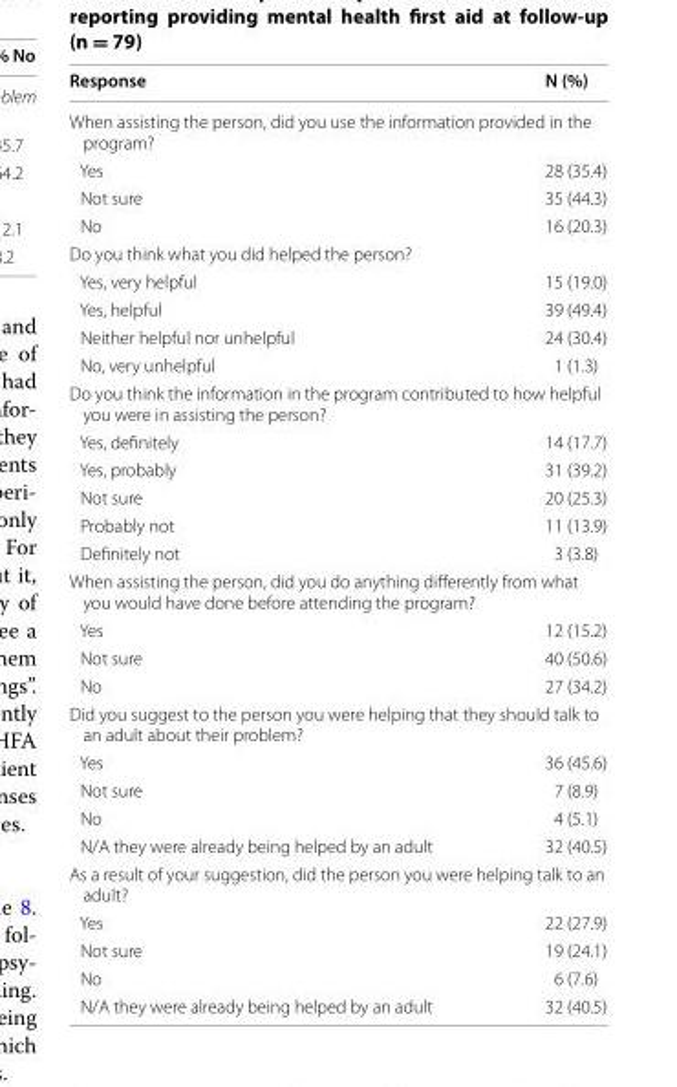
<table><thead><tr><td>Response</td><td>N (%)</td></tr></thead><tbody><tr><td colspan="2">When assisting the person, did you use the information provided in the program?</td></tr><tr><td>Yes</td><td>28 (35.4)</td></tr><tr><td>Not sure</td><td>35 (44.3)</td></tr><tr><td>No</td><td>16 (20.3)</td></tr><tr><td colspan="2">Do you think what you did helped the person?</td></tr><tr><td>Yes, very helpful</td><td>15 (19.0)</td></tr><tr><td>Yes, helpful</td><td>39 (49.4)</td></tr><tr><td>Neither helpful nor unhelpful</td><td>24 (30.4)</td></tr><tr><td>No, very unhelpful</td><td>1 (1.3)</td></tr><tr><td colspan="2">Do you think the information in the program contributed to how helpful you were in assisting the person?</td></tr><tr><td>Yes, definitely</td><td>14 (17.7)</td></tr><tr><td>Yes, probably</td><td>31 (39.2)</td></tr><tr><td>Not sure</td><td>20 (25.3)</td></tr><tr><td>Probably not</td><td>11 (13.9)</td></tr><tr><td>Definitely not</td><td>3 (3.8)</td></tr><tr><td colspan="2">When assisting the person, did you do anything differently from what you would have done before attending the program?</td></tr><tr><td>Yes</td><td>12 (15.2)</td></tr><tr><td>Not sure</td><td>40 (50.6)</td></tr><tr><td>No</td><td>27 (34.2)</td></tr><tr><td colspan="2">Did you suggest to the person you were helping that they should talk to an adult about their problem?</td></tr><tr><td>Yes</td><td>36 (45.6)</td></tr><tr><td>Not sure</td><td>7 (8.9)</td></tr><tr><td>No</td><td>4 (5.1)</td></tr><tr><td>N/A they were already being helped by an adult</td><td>32 (40.5)</td></tr><tr><td colspan="2">As a result of your suggestion, did the person you were helping talk to an adult?</td></tr><tr><td>Yes</td><td>22 (27.9)</td></tr><tr><td>Not sure</td><td>19 (24.1)</td></tr><tr><td>No</td><td>6 (7.6)</td></tr><tr><td>N/A they were already being helped by an adult</td><td>32 (40.5)</td></tr></tbody></table>